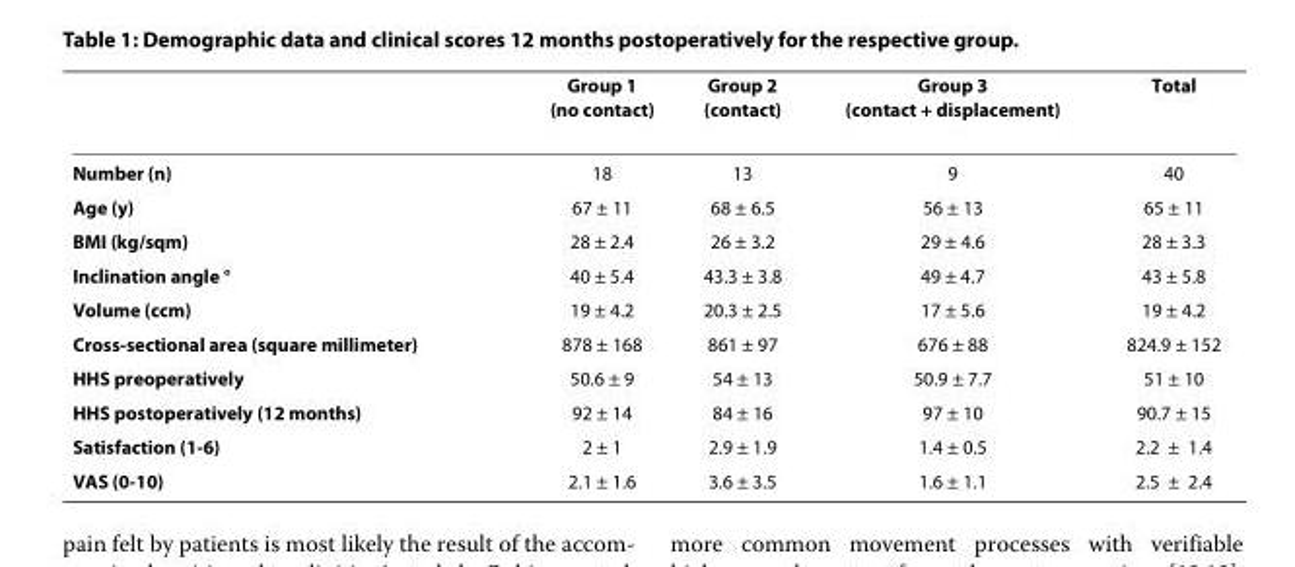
<table><thead><tr><td></td><td>Group 1 (no contact)</td><td>Group 2 (contact)</td><td>Group 3 (contact + displacement)</td><td>Total</td></tr></thead><tbody><tr><td>Number (n)</td><td>18</td><td>13</td><td>9</td><td>40</td></tr><tr><td>Age (y)</td><td>67 ± 11</td><td>68 ± 6.5</td><td>56 ± 13</td><td>65 ± 11</td></tr><tr><td>BMI (kg/sqm)</td><td>28 ± 2.4</td><td>26 ± 3.2</td><td>29 ± 4.6</td><td>28 ± 3.3</td></tr><tr><td>Inclination angle °</td><td>40 ± 5.4</td><td>43.3 ± 3.8</td><td>49 ± 4.7</td><td>43 ± 5.8</td></tr><tr><td>Volume (ccm)</td><td>19 ± 4.2</td><td>20.3 ± 2.5</td><td>17 ± 5.6</td><td>19 ± 4.2</td></tr><tr><td>Cross-sectional area (square millimeter)</td><td>878 ± 168</td><td>861 ± 97</td><td>676 ± 88</td><td>824.9 ± 152</td></tr><tr><td>HHS preoperatively</td><td>50.6 ± 9</td><td>54 ± 13</td><td>50.9 ± 7.7</td><td>51 ± 10</td></tr><tr><td>HHS postoperatively (12 months)</td><td>92 ± 14</td><td>84 ± 16</td><td>97 ± 10</td><td>90.7 ± 15</td></tr><tr><td>Satisfaction (1-6)</td><td>2 ± 1</td><td>2.9 ± 1.9</td><td>1.4 ± 0.5</td><td>2.2 ± 1.4</td></tr><tr><td>VAS (0-10)</td><td>2.1 ± 1.6</td><td>3.6 ± 3.5</td><td>1.6 ± 1.1</td><td>2.5 ± 2.4</td></tr></tbody></table>